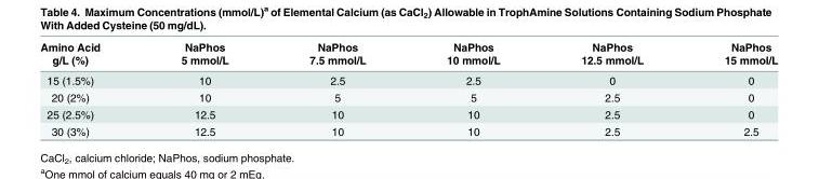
<table><thead><tr><td rowspan="2">Amino Acid g/L (%)</td><td rowspan="2">NaPhos 5 mmol/L</td><td rowspan="2">NaPhos 7.5 mmol/L</td><td rowspan="2">NaPhos 10 mmol/L</td><td rowspan="2">NaPhos 12.5 mmol/L</td><td rowspan="2">NaPhos 15 mmol/L</td></tr><tr></tr></thead><tbody><tr><td>15 (1.5%)</td><td>10</td><td>2.5</td><td>2.5</td><td>0</td><td>0</td></tr><tr><td>20 (2%)</td><td>10</td><td>5</td><td>5</td><td>2.5</td><td>0</td></tr><tr><td>25 (2.5%)</td><td>12.5</td><td>10</td><td>10</td><td>2.5</td><td>0</td></tr><tr><td>30 (3%)</td><td>12.5</td><td>10</td><td>10</td><td>2.5</td><td>2.5</td></tr></tbody></table>